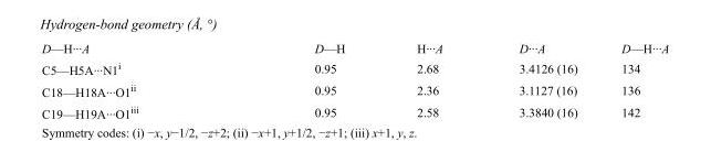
<table><tbody><tr><td>D—H···A</td><td>D—H</td><td>H···A</td><td>D···A</td><td>D—H···A</td></tr><tr><td>C5—H5A···N1<sup>i</sup></td><td>0.95</td><td>2.68</td><td>3.4126 (16)</td><td>134</td></tr><tr><td>C18—H18A···O1<sup>ii</sup></td><td>0.95</td><td>2.36</td><td>3.1127 (16)</td><td>136</td></tr><tr><td>C19—H19A···O1<sup>iii</sup></td><td>0.95</td><td>2.58</td><td>3.3840 (16)</td><td>142</td></tr></tbody></table>